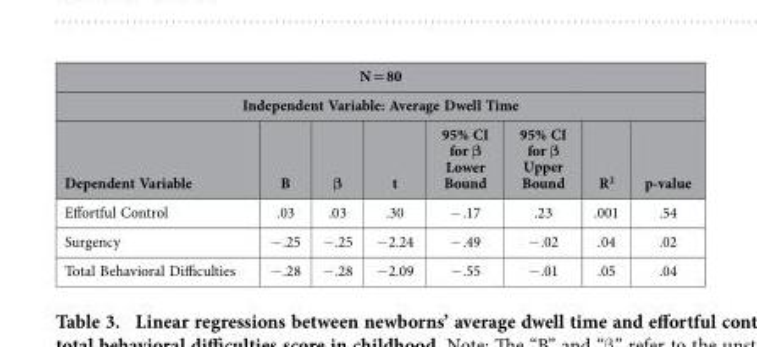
<table><thead><tr><td rowspan="2" colspan="8">N = 80 Independent Variable: Average Dwell Time</td></tr><tr></tr><tr><td>Dependent Variable</td><td>B</td><td>β</td><td>t</td><td>95% CI for β Lower Bound</td><td>95% CI for β Upper Bound</td><td>R<sup>2</sup></td><td>p-value</td></tr></thead><tbody><tr><td>Effortful Control</td><td>.03</td><td>.03</td><td>.30</td><td>− .17</td><td>.23</td><td>.001</td><td>.54</td></tr><tr><td>Surgency</td><td>− .25</td><td>− .25</td><td>− 2.24</td><td>− .49</td><td>− .02</td><td>.04</td><td>.02</td></tr><tr><td>Total Behavioral Difficulties</td><td>− .28</td><td>− .28</td><td>− 2.09</td><td>− .55</td><td>− .01</td><td>.05</td><td>.04</td></tr></tbody></table>